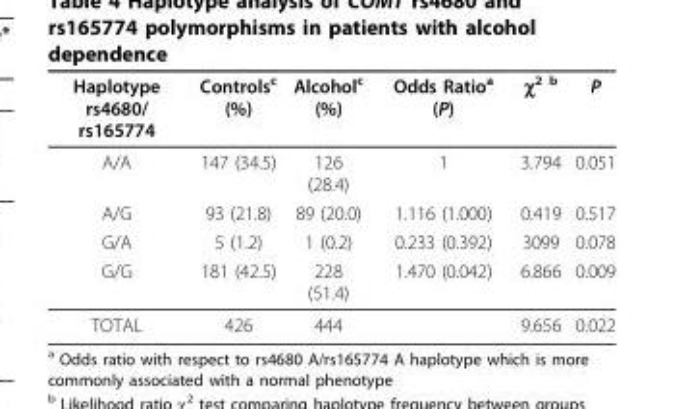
<table><thead><tr><td>Haplotype rs4680/ rs165774</td><td>Controls<sup>c</sup> (%)</td><td>Alcohol<sup>c</sup> (%)</td><td>Odds Ratio<sup>a</sup> (P)</td><td>χ<sup>2 b</sup></td><td>P</td></tr></thead><tbody><tr><td>A/A</td><td>147 (34.5)</td><td>126 (28.4)</td><td>1</td><td>3.794</td><td>0.051</td></tr><tr><td>A/G</td><td>93 (21.8)</td><td>89 (20.0)</td><td>1.116 (1.000)</td><td>0.419</td><td>0.517</td></tr><tr><td>G/A</td><td>5 (1.2)</td><td>1 (0.2)</td><td>0.233 (0.392)</td><td>3099</td><td>0.078</td></tr><tr><td>G/G</td><td>181 (42.5)</td><td>228 (51.4)</td><td>1.470 (0.042)</td><td>6.866</td><td>0.009</td></tr><tr><td>TOTAL</td><td>426</td><td>444</td><td></td><td>9.656</td><td>0.022</td></tr></tbody></table>